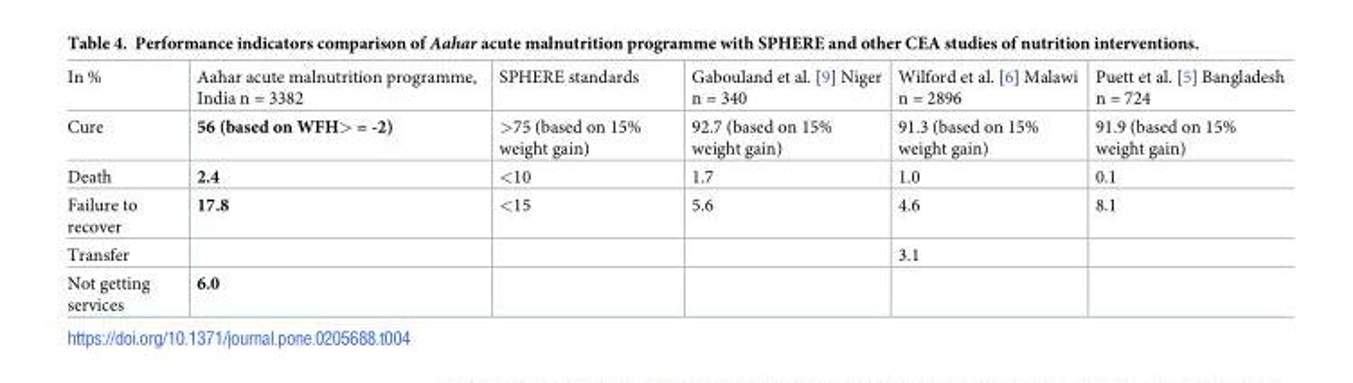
<table><tbody><tr><td>In %</td><td>Aahar acute malnutrition programme, India n = 3382</td><td>SPHERE standards</td><td>Gabouland et al. [9] Niger n = 340</td><td>Wilford et al. [6] Malawi n = 2896</td><td>Puett et al. [5] Bangladesh n = 724</td></tr><tr><td>Cure</td><td>56 (based on WFH&gt; = -2)</td><td>&gt;75 (based on 15% weight gain)</td><td>92.7 (based on 15% weight gain)</td><td>91.3 (based on 15% weight gain)</td><td>91.9 (based on 15% weight gain)</td></tr><tr><td>Death</td><td>2.4</td><td>&lt;10</td><td>1.7</td><td>1.0</td><td>0.1</td></tr><tr><td>Failure to recover</td><td>17.8</td><td>&lt;15</td><td>5.6</td><td>4.6</td><td>8.1</td></tr><tr><td>Transfer</td><td></td><td></td><td></td><td>3.1</td><td></td></tr><tr><td>Not getting services</td><td>6.0</td><td></td><td></td><td></td><td></td></tr></tbody></table>